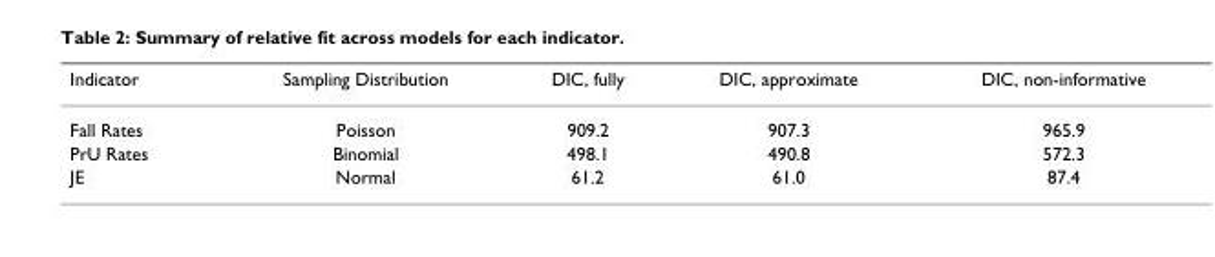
<table><thead><tr><td>Indicator</td><td>Sampling Distribution</td><td>DIC, fully</td><td>DIC, approximate</td><td>DIC, non-informative</td></tr></thead><tbody><tr><td>Fall Rates</td><td>Poisson</td><td>909.2</td><td>907.3</td><td>965.9</td></tr><tr><td>PrU Rates</td><td>Binomial</td><td>498.1</td><td>490.8</td><td>572.3</td></tr><tr><td>JE</td><td>Normal</td><td>61.2</td><td>61.0</td><td>87.4</td></tr></tbody></table>